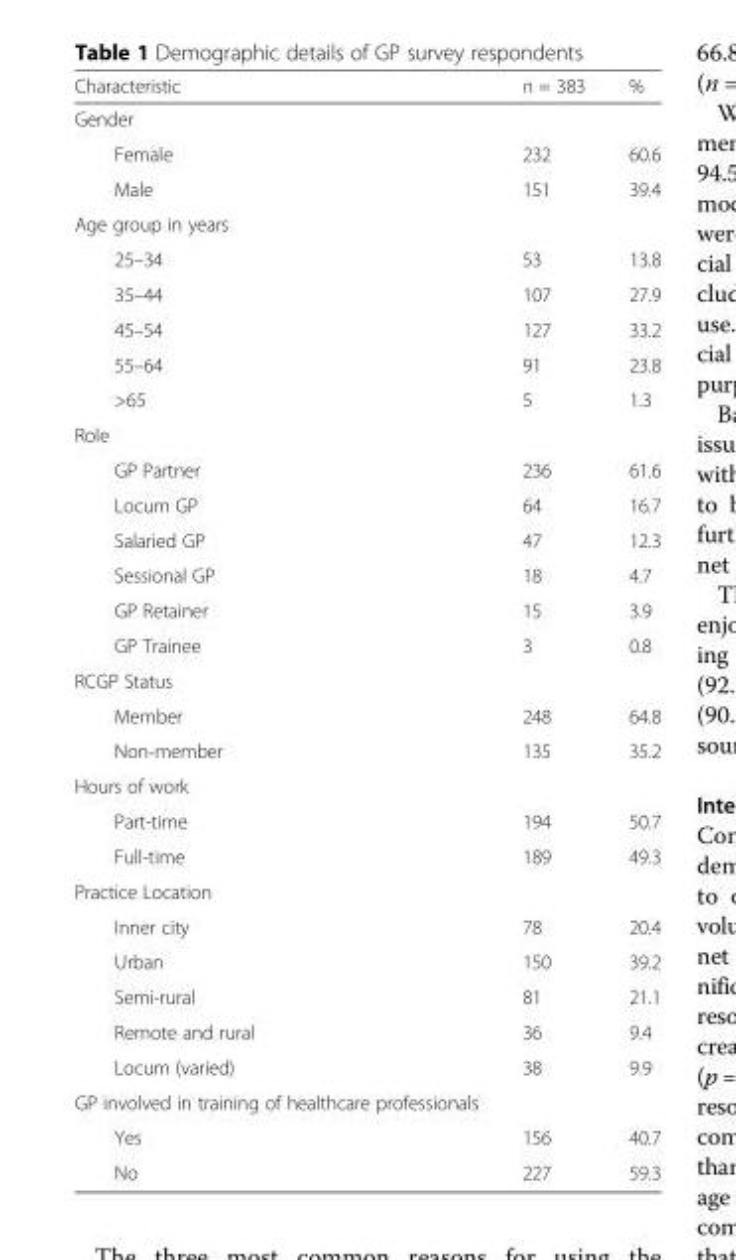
<table><thead><tr><td>Characteristic</td><td>n = 383</td><td>%</td></tr></thead><tbody><tr><td colspan="3">Gender</td></tr><tr><td>Female</td><td>232</td><td>60.6</td></tr><tr><td>Male</td><td>151</td><td>39.4</td></tr><tr><td colspan="3">Age group in years</td></tr><tr><td>25–34</td><td>53</td><td>13.8</td></tr><tr><td>35–44</td><td>107</td><td>27.9</td></tr><tr><td>45–54</td><td>127</td><td>33.2</td></tr><tr><td>55–64</td><td>91</td><td>23.8</td></tr><tr><td>&gt;65</td><td>5</td><td>1.3</td></tr><tr><td colspan="3">Role</td></tr><tr><td>GP Partner</td><td>236</td><td>61.6</td></tr><tr><td>Locum GP</td><td>64</td><td>16.7</td></tr><tr><td>Salaried GP</td><td>47</td><td>12.3</td></tr><tr><td>Sessional GP</td><td>18</td><td>4.7</td></tr><tr><td>GP Retainer</td><td>15</td><td>3.9</td></tr><tr><td>GP Trainee</td><td>3</td><td>0.8</td></tr><tr><td colspan="3">RCGP Status</td></tr><tr><td>Member</td><td>248</td><td>64.8</td></tr><tr><td>Non-member</td><td>135</td><td>35.2</td></tr><tr><td colspan="3">Hours of work</td></tr><tr><td>Part-time</td><td>194</td><td>50.7</td></tr><tr><td>Full-time</td><td>189</td><td>49.3</td></tr><tr><td colspan="3">Practice Location</td></tr><tr><td>Inner city</td><td>78</td><td>20.4</td></tr><tr><td>Urban</td><td>150</td><td>39.2</td></tr><tr><td>Semi-rural</td><td>81</td><td>21.1</td></tr><tr><td>Remote and rural</td><td>36</td><td>9.4</td></tr><tr><td>Locum (varied)</td><td>38</td><td>9.9</td></tr><tr><td colspan="3">GP involved in training of healthcare professionals</td></tr><tr><td>Yes</td><td>156</td><td>40.7</td></tr><tr><td>No</td><td>227</td><td>59.3</td></tr></tbody></table>